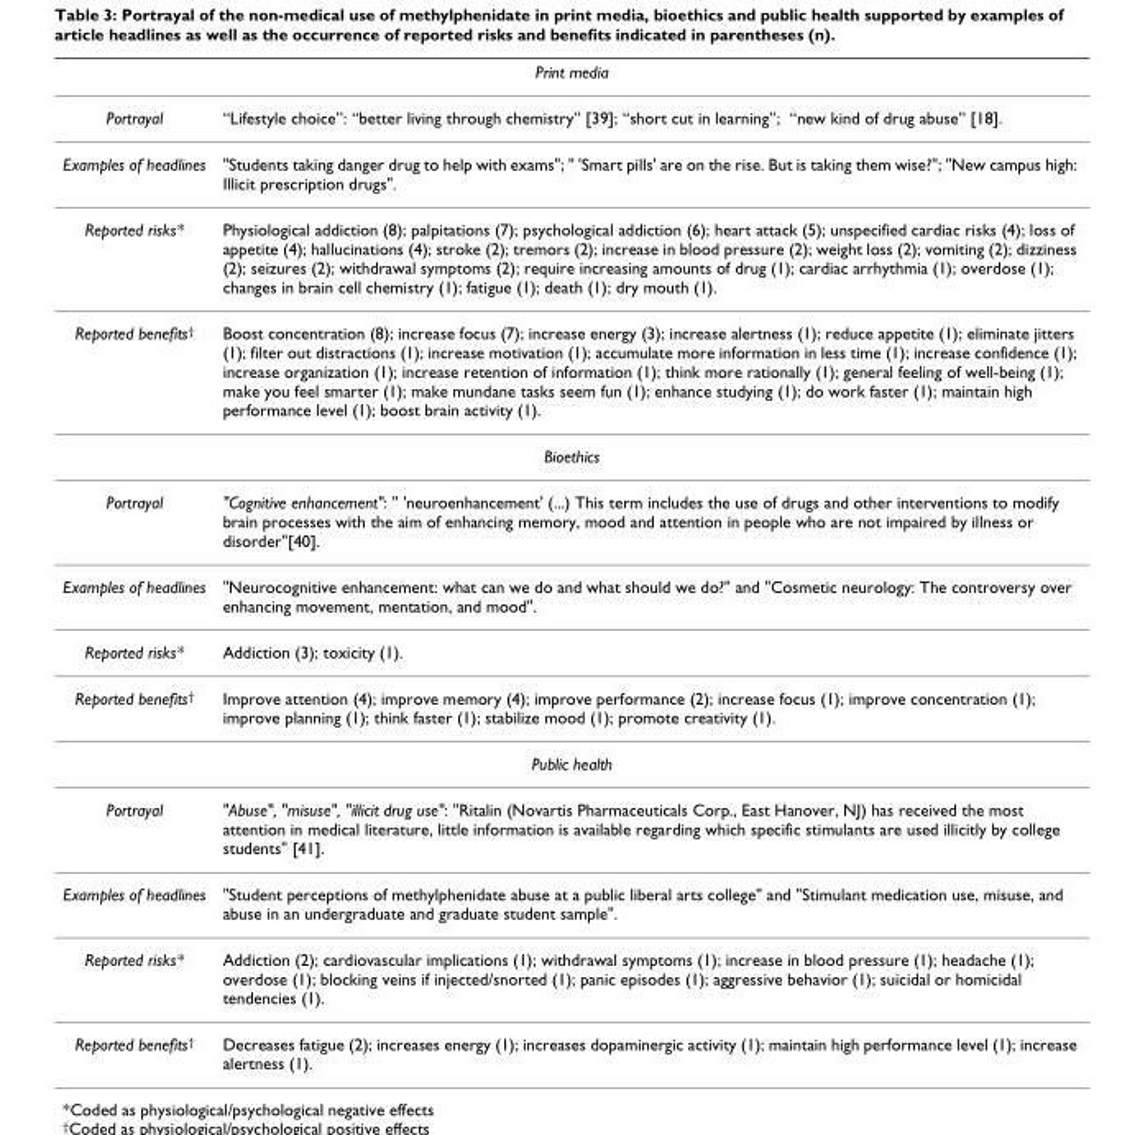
<table><thead><tr><td colspan="2">Print media</td></tr><tr><td>Portrayal</td><td>“Lifestyle choice”: “better living through chemistry” [39]; “short cut in learning”; “new kind of drug abuse” [18].</td></tr></thead><tbody><tr><td>Examples of headlines</td><td>&quot;Students taking danger drug to help with exams&quot;; &quot; &#x27;Smart pills&#x27; are on the rise. But is taking them wise?&quot;; &quot;New campus high: Illicit prescription drugs&quot;.</td></tr><tr><td>Reported risks*</td><td>Physiological addiction (8); palpitations (7); psychological addiction (6); heart attack (5); unspecified cardiac risks (4); loss of appetite (4); hallucinations (4); stroke (2); tremors (2); increase in blood pressure (2); weight loss (2); vomiting (2); dizziness (2); seizures (2); withdrawal symptoms (2); require increasing amounts of drug (1); cardiac arrhythmia (1); overdose (1); changes in brain cell chemistry (1); fatigue (1); death (1); dry mouth (1).</td></tr><tr><td>Reported benefits<sup>†</sup></td><td>Boost concentration (8); increase focus (7); increase energy (3); increase alertness (1); reduce appetite (1); eliminate jitters (1); filter out distractions (1); increase motivation (1); accumulate more information in less time (1); increase confidence (1); increase organization (1); increase retention of information (1); think more rationally (1); general feeling of well-being (1); make you feel smarter (1); make mundane tasks seem fun (1); enhance studying (1); do work faster (1); maintain high performance level (1); boost brain activity (1).</td></tr><tr><td colspan="2">Bioethics</td></tr><tr><td>Portrayal</td><td>&quot;Cognitive enhancement&quot;: &quot; &#x27;neuroenhancement&#x27; (...) This term includes the use of drugs and other interventions to modify brain processes with the aim of enhancing memory, mood and attention in people who are not impaired by illness or disorder&quot;[40].</td></tr><tr><td>Examples of headlines</td><td>&quot;Neurocognitive enhancement: what can we do and what should we do?&quot; and &quot;Cosmetic neurology: The controversy over enhancing movement, mentation, and mood&quot;.</td></tr><tr><td>Reported risks*</td><td>Addiction (3); toxicity (1).</td></tr><tr><td>Reported benefits<sup>†</sup></td><td>Improve attention (4); improve memory (4); improve performance (2); increase focus (1); improve concentration (1); improve planning (1); think faster (1); stabilize mood (1); promote creativity (1).</td></tr><tr><td colspan="2">Public health</td></tr><tr><td>Portrayal</td><td>&quot;Abuse&quot;, &quot;misuse&quot;, &quot;illicit drug use&quot;: &quot;Ritalin (Novartis Pharmaceuticals Corp., East Hanover, NJ) has received the most attention in medical literature, little information is available regarding which specific stimulants are used illicitly by college students&quot; [41].</td></tr><tr><td>Examples of headlines</td><td>&quot;Student perceptions of methylphenidate abuse at a public liberal arts college&quot; and &quot;Stimulant medication use, misuse, and abuse in an undergraduate and graduate student sample&quot;.</td></tr><tr><td>Reported risks*</td><td>Addiction (2); cardiovascular implications (1); withdrawal symptoms (1); increase in blood pressure (1); headache (1); overdose (1); blocking veins if injected/snorted (1); panic episodes (1); aggressive behavior (1); suicidal or homicidal tendencies (1).</td></tr><tr><td>Reported benefits<sup>†</sup></td><td>Decreases fatigue (2); increases energy (1); increases dopaminergic activity (1); maintain high performance level (1); increase alertness (1).</td></tr></tbody></table>